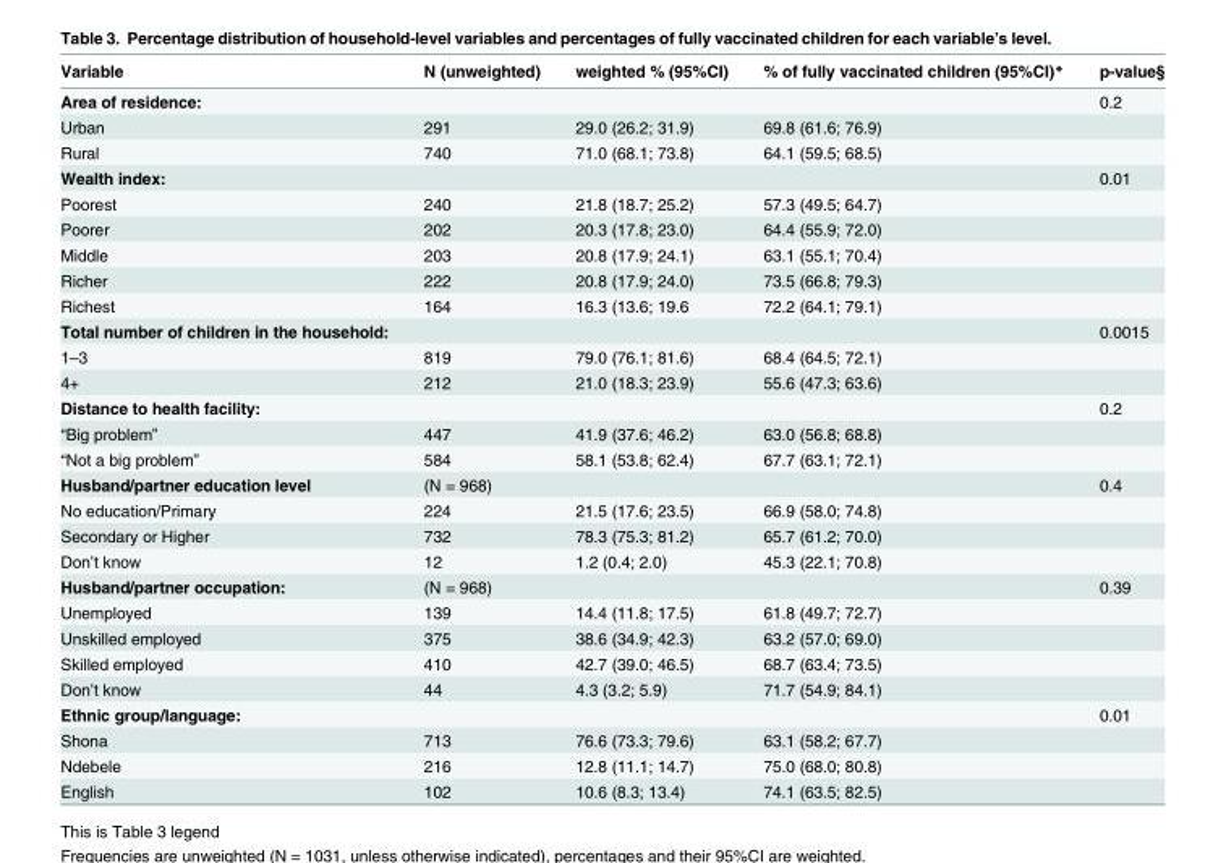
<table><thead><tr><td>Variable</td><td>N (unweighted)</td><td>weighted % (95%CI)</td><td>% of fully vaccinated children (95%CI)*</td><td>p-value§</td></tr></thead><tbody><tr><td>Area of residence:</td><td></td><td></td><td></td><td>0.2</td></tr><tr><td>Urban</td><td>291</td><td>29.0 (26.2; 31.9)</td><td>69.8 (61.6; 76.9)</td><td></td></tr><tr><td>Rural</td><td>740</td><td>71.0 (68.1; 73.8)</td><td>64.1 (59.5; 68.5)</td><td></td></tr><tr><td>Wealth index:</td><td></td><td></td><td></td><td>0.01</td></tr><tr><td>Poorest</td><td>240</td><td>21.8 (18.7; 25.2)</td><td>57.3 (49.5; 64.7)</td><td></td></tr><tr><td>Poorer</td><td>202</td><td>20.3 (17.8; 23.0)</td><td>64.4 (55.9; 72.0)</td><td></td></tr><tr><td>Middle</td><td>203</td><td>20.8 (17.9; 24.1)</td><td>63.1 (55.1; 70.4)</td><td></td></tr><tr><td>Richer</td><td>222</td><td>20.8 (17.9; 24.0)</td><td>73.5 (66.8; 79.3)</td><td></td></tr><tr><td>Richest</td><td>164</td><td>16.3 (13.6; 19.6</td><td>72.2 (64.1; 79.1)</td><td></td></tr><tr><td>Total number of children in the household:</td><td></td><td></td><td></td><td>0.0015</td></tr><tr><td>1–3</td><td>819</td><td>79.0 (76.1; 81.6)</td><td>68.4 (64.5; 72.1)</td><td></td></tr><tr><td>4+</td><td>212</td><td>21.0 (18.3; 23.9)</td><td>55.6 (47.3; 63.6)</td><td></td></tr><tr><td>Distance to health facility:</td><td></td><td></td><td></td><td>0.2</td></tr><tr><td>“Big problem”</td><td>447</td><td>41.9 (37.6; 46.2)</td><td>63.0 (56.8; 68.8)</td><td></td></tr><tr><td>“Not a big problem”</td><td>584</td><td>58.1 (53.8; 62.4)</td><td>67.7 (63.1; 72.1)</td><td></td></tr><tr><td>Husband/partner education level</td><td>(N = 968)</td><td></td><td></td><td>0.4</td></tr><tr><td>No education/Primary</td><td>224</td><td>21.5 (17.6; 23.5)</td><td>66.9 (58.0; 74.8)</td><td></td></tr><tr><td>Secondary or Higher</td><td>732</td><td>78.3 (75.3; 81.2)</td><td>65.7 (61.2; 70.0)</td><td></td></tr><tr><td>Don’t know</td><td>12</td><td>1.2 (0.4; 2.0)</td><td>45.3 (22.1; 70.8)</td><td></td></tr><tr><td>Husband/partner occupation:</td><td>(N = 968)</td><td></td><td></td><td>0.39</td></tr><tr><td>Unemployed</td><td>139</td><td>14.4 (11.8; 17.5)</td><td>61.8 (49.7; 72.7)</td><td></td></tr><tr><td>Unskilled employed</td><td>375</td><td>38.6 (34.9; 42.3)</td><td>63.2 (57.0; 69.0)</td><td></td></tr><tr><td>Skilled employed</td><td>410</td><td>42.7 (39.0; 46.5)</td><td>68.7 (63.4; 73.5)</td><td></td></tr><tr><td>Don’t know</td><td>44</td><td>4.3 (3.2; 5.9)</td><td>71.7 (54.9; 84.1)</td><td></td></tr><tr><td>Ethnic group/language:</td><td></td><td></td><td></td><td>0.01</td></tr><tr><td>Shona</td><td>713</td><td>76.6 (73.3; 79.6)</td><td>63.1 (58.2; 67.7)</td><td></td></tr><tr><td>Ndebele</td><td>216</td><td>12.8 (11.1; 14.7)</td><td>75.0 (68.0; 80.8)</td><td></td></tr><tr><td>English</td><td>102</td><td>10.6 (8.3; 13.4)</td><td>74.1 (63.5; 82.5)</td><td></td></tr></tbody></table>